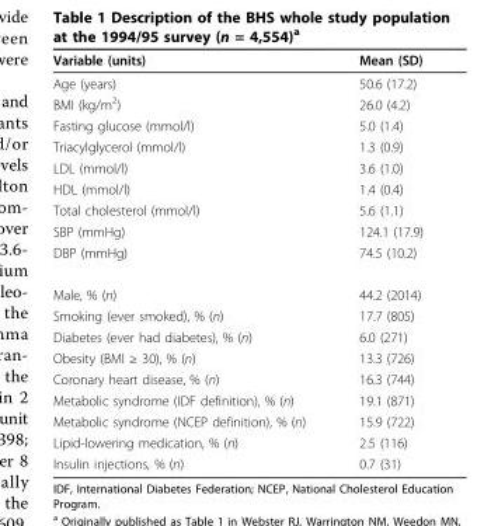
<table><thead><tr><td>Variable (units)</td><td>Mean (SD)</td></tr></thead><tbody><tr><td>Age (years)</td><td>50.6 (17.2)</td></tr><tr><td>BMI (kg/m<sup>2</sup>)</td><td>26.0 (4.2)</td></tr><tr><td>Fasting glucose (mmol/l)</td><td>5.0 (1.4)</td></tr><tr><td>Triacylglycerol (mmol/l)</td><td>1.3 (0.9)</td></tr><tr><td>LDL (mmol/l)</td><td>3.6 (1.0)</td></tr><tr><td>HDL (mmol/l)</td><td>1.4 (0.4)</td></tr><tr><td>Total cholesterol (mmol/l)</td><td>5.6 (1.1)</td></tr><tr><td>SBP (mmHg)</td><td>124.1 (17.9)</td></tr><tr><td>DBP (mmHg)</td><td>74.5 (10.2)</td></tr><tr><td>Male, % (n)</td><td>44.2 (2014)</td></tr><tr><td>Smoking (ever smoked), % (n)</td><td>17.7 (805)</td></tr><tr><td>Diabetes (ever had diabetes), % (n)</td><td>6.0 (271)</td></tr><tr><td>Obesity (BMI ≥ 30), % (n)</td><td>13.3 (726)</td></tr><tr><td>Coronary heart disease, % (n)</td><td>16.3 (744)</td></tr><tr><td>Metabolic syndrome (IDF definition), % (n)</td><td>19.1 (871)</td></tr><tr><td>Metabolic syndrome (NCEP definition), % (n)</td><td>15.9 (722)</td></tr><tr><td>Lipid-lowering medication, % (n)</td><td>2.5 (116)</td></tr><tr><td>Insulin injections, % (n)</td><td>0.7 (31)</td></tr></tbody></table>